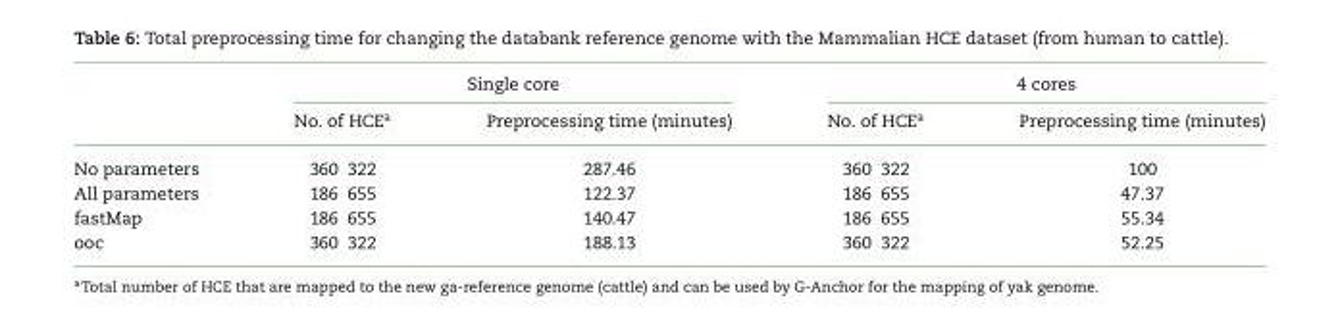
<table><thead><tr><td rowspan="2"></td><td colspan="2">Single core</td><td colspan="2">4 cores</td></tr><tr><td>No. of HCE<sup>a</sup></td><td>Preprocessing time (minutes)</td><td>No. of HCE<sup>a</sup></td><td>Preprocessing time (minutes)</td></tr></thead><tbody><tr><td>No parameters</td><td>360 322</td><td>287.46</td><td>360 322</td><td>100</td></tr><tr><td>All parameters</td><td>186 655</td><td>122.37</td><td>186 655</td><td>47.37</td></tr><tr><td>fastMap</td><td>186 655</td><td>140.47</td><td>186 655</td><td>55.34</td></tr><tr><td>ooc</td><td>360 322</td><td>188.13</td><td>360 322</td><td>52.25</td></tr></tbody></table>